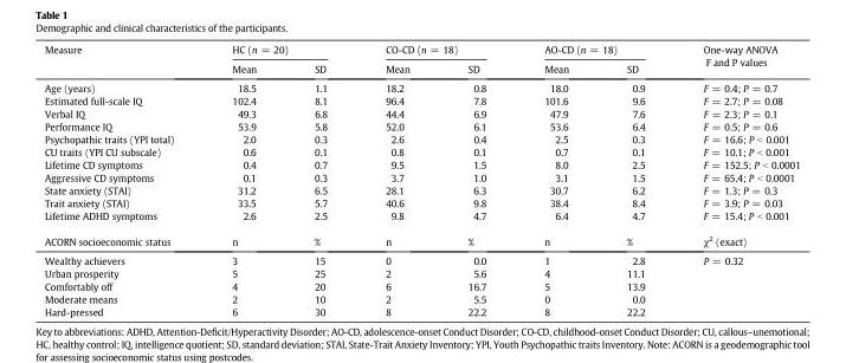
<table><thead><tr><td rowspan="2">Measure</td><td colspan="2">HC (n = 20)</td><td colspan="2">CO-CD (n = 18)</td><td colspan="2">AO-CD (n = 18)</td><td rowspan="2">One-way ANOVA F and P values</td></tr><tr><td>Mean</td><td>SD</td><td>Mean</td><td>SD</td><td>Mean</td><td>SD</td></tr></thead><tbody><tr><td>Age (years)</td><td>18.5</td><td>1.1</td><td>18.2</td><td>0.8</td><td>18.0</td><td>0.9</td><td>F = 0.4; P = 0.7</td></tr><tr><td>Estimated full-scale IQ</td><td>102.4</td><td>8.1</td><td>96.4</td><td>7.8</td><td>101.6</td><td>9.6</td><td>F = 2.7; P = 0.08</td></tr><tr><td>Verbal IQ</td><td>49.3</td><td>6.8</td><td>44.4</td><td>6.9</td><td>47.9</td><td>7.6</td><td>F = 2.3; P = 0.1</td></tr><tr><td>Performance IQ</td><td>53.9</td><td>5.8</td><td>52.0</td><td>6.1</td><td>53.6</td><td>6.4</td><td>F = 0.5; P = 0.6</td></tr><tr><td>Psychopathic traits (YPI total)</td><td>2.0</td><td>0.3</td><td>2.6</td><td>0.4</td><td>2.5</td><td>0.3</td><td>F = 16.6; P &lt; 0.001</td></tr><tr><td>CU traits (YPI CU subscale)</td><td>0.6</td><td>0.1</td><td>0.8</td><td>0.1</td><td>0.7</td><td>0.1</td><td>F = 10.1; P &lt; 0.001</td></tr><tr><td>Lifetime CD symptoms</td><td>0.4</td><td>0.7</td><td>9.5</td><td>1.5</td><td>8.0</td><td>2.5</td><td>F = 152.5; P &lt; 0.0001</td></tr><tr><td>Aggressive CD symptoms</td><td>0.1</td><td>0.3</td><td>3.7</td><td>1.0</td><td>3.1</td><td>1.5</td><td>F = 65.4; P &lt; 0.0001</td></tr><tr><td>State anxiety (STAI)</td><td>31.2</td><td>6.5</td><td>28.1</td><td>6.3</td><td>30.7</td><td>6.2</td><td>F = 1.3; P = 0.3</td></tr><tr><td>Trait anxiety (STAI)</td><td>33.5</td><td>5.7</td><td>40.6</td><td>9.8</td><td>38.4</td><td>8.4</td><td>F = 3.9; P = 0.03</td></tr><tr><td>Lifetime ADHD symptoms</td><td>2.6</td><td>2.5</td><td>9.8</td><td>4.7</td><td>6.4</td><td>4.7</td><td>F = 15.4; P &lt; 0.001</td></tr><tr><td>ACORN socioeconomic status</td><td>n</td><td>%</td><td>n</td><td>%</td><td>n</td><td>%</td><td>χ<sup>2</sup> (exact)</td></tr><tr><td>Wealthy achievers</td><td>3</td><td>15</td><td>0</td><td>0.0</td><td>1</td><td>2.8</td><td>P = 0.32</td></tr><tr><td>Urban prosperity</td><td>5</td><td>25</td><td>2</td><td>5.6</td><td>4</td><td>11.1</td><td></td></tr><tr><td>Comfortably off</td><td>4</td><td>20</td><td>6</td><td>16.7</td><td>5</td><td>13.9</td><td></td></tr><tr><td>Moderate means</td><td>2</td><td>10</td><td>2</td><td>5.5</td><td>0</td><td>0.0</td><td></td></tr><tr><td>Hard-pressed</td><td>6</td><td>30</td><td>8</td><td>22.2</td><td>8</td><td>22.2</td><td></td></tr></tbody></table>